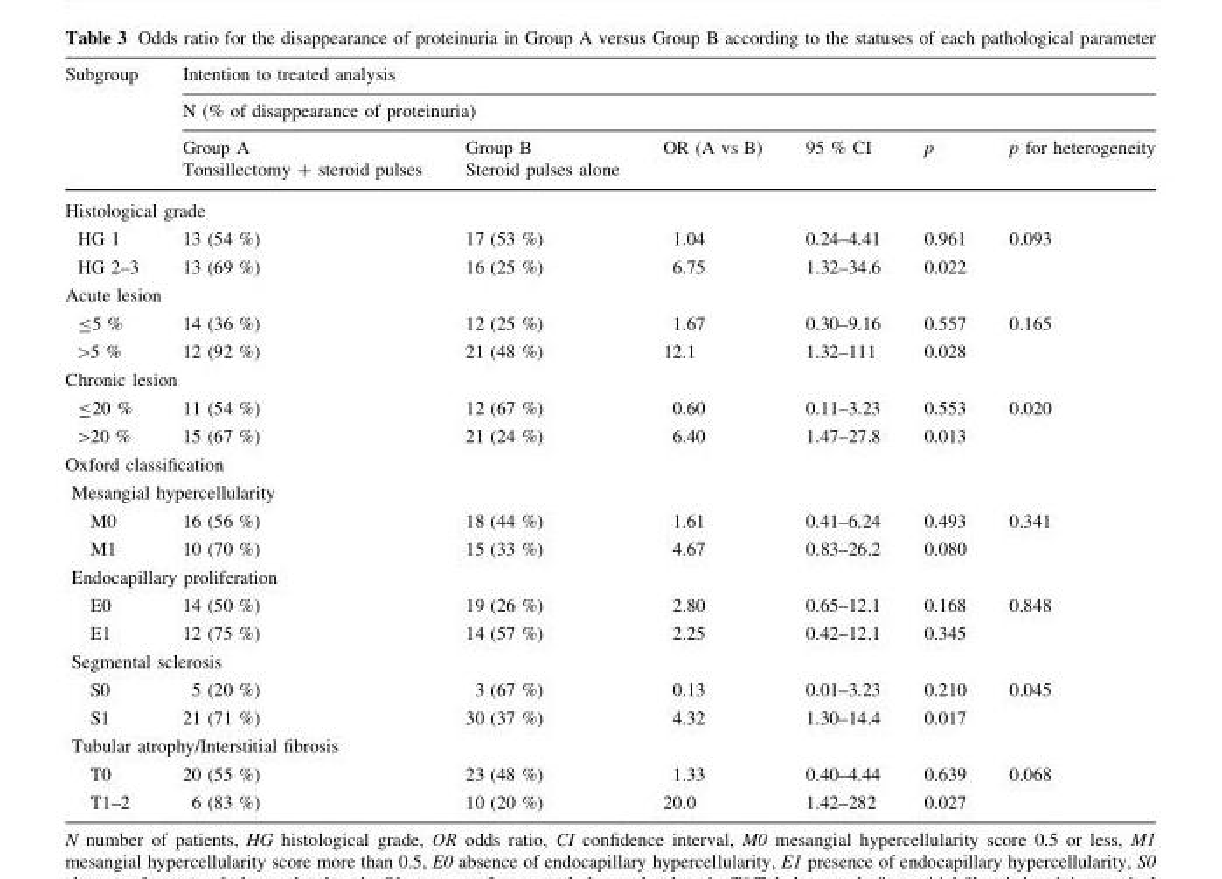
<table><thead><tr><td rowspan="4">Subgroup</td><td rowspan="2" colspan="6">Intention to treated analysis N (% of disappearance of proteinuria)</td></tr><tr></tr><tr><td rowspan="2">Group A Tonsillectomy + steroid pulses</td><td rowspan="2">Group B Steroid pulses alone</td><td rowspan="2">OR (A vs B)</td><td rowspan="2">95 % CI</td><td rowspan="2">p</td><td rowspan="2">p for heterogeneity</td></tr><tr></tr></thead><tbody><tr><td colspan="7">Histological grade</td></tr><tr><td>HG 1</td><td>13 (54 %)</td><td>17 (53 %)</td><td>1.04</td><td>0.24–4.41</td><td>0.961</td><td rowspan="2">0.093</td></tr><tr><td>HG 2–3</td><td>13 (69 %)</td><td>16 (25 %)</td><td>6.75</td><td>1.32–34.6</td><td>0.022</td></tr><tr><td colspan="7">Acute lesion</td></tr><tr><td>≤5 %</td><td>14 (36 %)</td><td>12 (25 %)</td><td>1.67</td><td>0.30–9.16</td><td>0.557</td><td rowspan="2">0.165</td></tr><tr><td>&gt;5 %</td><td>12 (92 %)</td><td>21 (48 %)</td><td>12.1</td><td>1.32–111</td><td>0.028</td></tr><tr><td colspan="7">Chronic lesion</td></tr><tr><td>≤20 %</td><td>11 (54 %)</td><td>12 (67 %)</td><td>0.60</td><td>0.11–3.23</td><td>0.553</td><td rowspan="2">0.020</td></tr><tr><td>&gt;20 %</td><td>15 (67 %)</td><td>21 (24 %)</td><td>6.40</td><td>1.47–27.8</td><td>0.013</td></tr><tr><td colspan="7">Oxford classification</td></tr><tr><td colspan="7">Mesangial hypercellularity</td></tr><tr><td>M0</td><td>16 (56 %)</td><td>18 (44 %)</td><td>1.61</td><td>0.41–6.24</td><td>0.493</td><td rowspan="2">0.341</td></tr><tr><td>M1</td><td>10 (70 %)</td><td>15 (33 %)</td><td>4.67</td><td>0.83–26.2</td><td>0.080</td></tr><tr><td colspan="7">Endocapillary proliferation</td></tr><tr><td>E0</td><td>14 (50 %)</td><td>19 (26 %)</td><td>2.80</td><td>0.65–12.1</td><td>0.168</td><td rowspan="2">0.848</td></tr><tr><td>E1</td><td>12 (75 %)</td><td>14 (57 %)</td><td>2.25</td><td>0.42–12.1</td><td>0.345</td></tr><tr><td colspan="7">Segmental sclerosis</td></tr><tr><td>S0</td><td>5 (20 %)</td><td>3 (67 %)</td><td>0.13</td><td>0.01–3.23</td><td>0.210</td><td rowspan="2">0.045</td></tr><tr><td>S1</td><td>21 (71 %)</td><td>30 (37 %)</td><td>4.32</td><td>1.30–14.4</td><td>0.017</td></tr><tr><td colspan="7">Tubular atrophy/Interstitial fibrosis</td></tr><tr><td>T0</td><td>20 (55 %)</td><td>23 (48 %)</td><td>1.33</td><td>0.40–4.44</td><td>0.639</td><td rowspan="2">0.068</td></tr><tr><td>T1–2</td><td>6 (83 %)</td><td>10 (20 %)</td><td>20.0</td><td>1.42–282</td><td>0.027</td></tr></tbody></table>